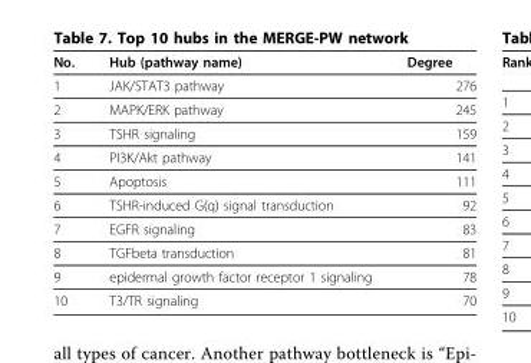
<table><thead><tr><td>No.</td><td>Hub (pathway name)</td><td>Degree</td></tr></thead><tbody><tr><td>1</td><td>JAK/STAT3 pathway</td><td>276</td></tr><tr><td>2</td><td>MAPK/ERK pathway</td><td>245</td></tr><tr><td>3</td><td>TSHR signaling</td><td>159</td></tr><tr><td>4</td><td>PI3K/Akt pathway</td><td>141</td></tr><tr><td>5</td><td>Apoptosis</td><td>111</td></tr><tr><td>6</td><td>TSHR-induced G(q) signal transduction</td><td>92</td></tr><tr><td>7</td><td>EGFR signaling</td><td>83</td></tr><tr><td>8</td><td>TGFbeta transduction</td><td>81</td></tr><tr><td>9</td><td>epidermal growth factor receptor 1 signaling</td><td>78</td></tr><tr><td>10</td><td>T3/TR signaling</td><td>70</td></tr></tbody></table>